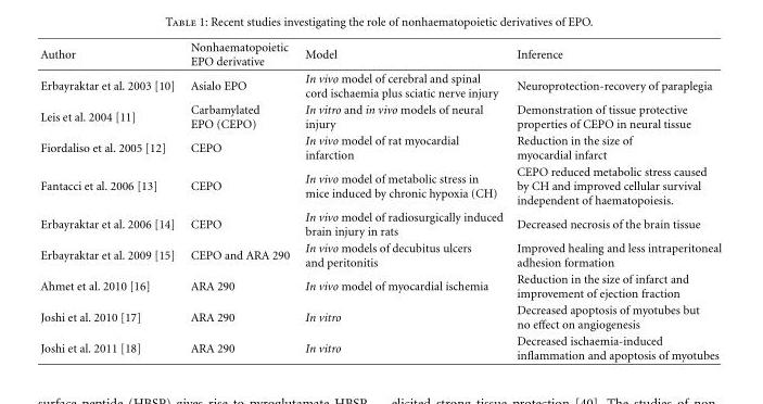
<table><thead><tr><td>Author</td><td>Nonhaematopoietic EPO derivative</td><td>Model</td><td>Inference</td></tr></thead><tbody><tr><td>Erbayraktar et al. 2003 [10]</td><td>Asialo EPO</td><td>In vivo model of cerebral and spinal cord ischaemia plus sciatic nerve injury</td><td>Neuroprotection-recovery of paraplegia</td></tr><tr><td>Leis et al. 2004 [11]</td><td>Carbamylated EPO (CEPO)</td><td>In vitro and in vivo models of neural injury</td><td>Demonstration of tissue protective properties of CEPO in neural tissue</td></tr><tr><td>Fiordaliso et al. 2005 [12]</td><td>CEPO</td><td>In vivo model of rat myocardial infarction</td><td>Reduction in the size of myocardial infarct</td></tr><tr><td>Fantacci et al. 2006 [13]</td><td>CEPO</td><td>In vivo model of metabolic stress in mice induced by chronic hypoxia (CH)</td><td>CEPO reduced metabolic stress caused by CH and improved cellular survival independent of haematopoiesis.</td></tr><tr><td>Erbayraktar et al. 2006 [14]</td><td>CEPO</td><td>In vivo model of radiosurgically induced brain injury in rats</td><td>Decreased necrosis of the brain tissue</td></tr><tr><td>Erbayraktar et al. 2009 [15]</td><td>CEPO and ARA 290</td><td>In vivo models of decubitus ulcers and peritonitis</td><td>Improved healing and less intraperitoneal adhesion formation</td></tr><tr><td>Ahmet et al. 2010 [16]</td><td>ARA 290</td><td>In vivo model of myocardial ischemia</td><td>Reduction in the size of infarct and improvement of ejection fraction</td></tr><tr><td>Joshi et al. 2010 [17]</td><td>ARA 290</td><td>In vitro</td><td>Decreased apoptosis of myotubes but no effect on angiogenesis</td></tr><tr><td>Joshi et al. 2011 [18]</td><td>ARA 290</td><td>In vitro</td><td>Decreased ischaemia-induced inflammation and apoptosis of myotubes</td></tr></tbody></table>